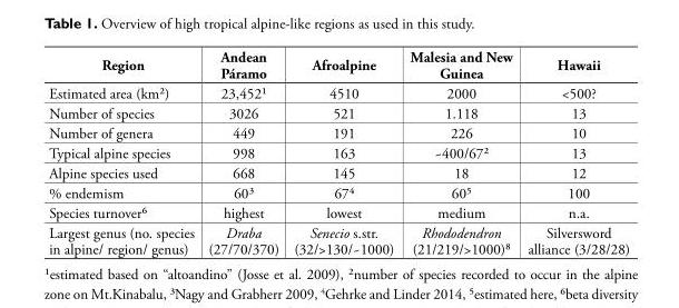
<table><thead><tr><td>Region</td><td>Andean Páramo</td><td>Afroalpine</td><td>Malesia and New Guinea</td><td>Hawaii</td></tr></thead><tbody><tr><td>Estimated area (km²)</td><td>23,452¹</td><td>4510</td><td>2000</td><td>&lt;500?</td></tr><tr><td>Number of species</td><td>3026</td><td>521</td><td>1.118</td><td>13</td></tr><tr><td>Number of genera</td><td>449</td><td>191</td><td>226</td><td>10</td></tr><tr><td>Typical alpine species</td><td>998</td><td>163</td><td>~400/67²</td><td>13</td></tr><tr><td>Alpine species used</td><td>668</td><td>145</td><td>18</td><td>12</td></tr><tr><td>% endemism</td><td>60³</td><td>67⁴</td><td>60⁵</td><td>100</td></tr><tr><td>Species turnover⁶</td><td>highest</td><td>lowest</td><td>medium</td><td>n.a.</td></tr><tr><td>Largest genus (no. species in alpine/ region/ genus)</td><td>Draba (27/70/370)</td><td>Senecio s.str. (32/&gt;130/~1000)</td><td>Rhododendron (21/219/&gt;1000)⁸</td><td>Silversword alliance (3/28/28)</td></tr></tbody></table>